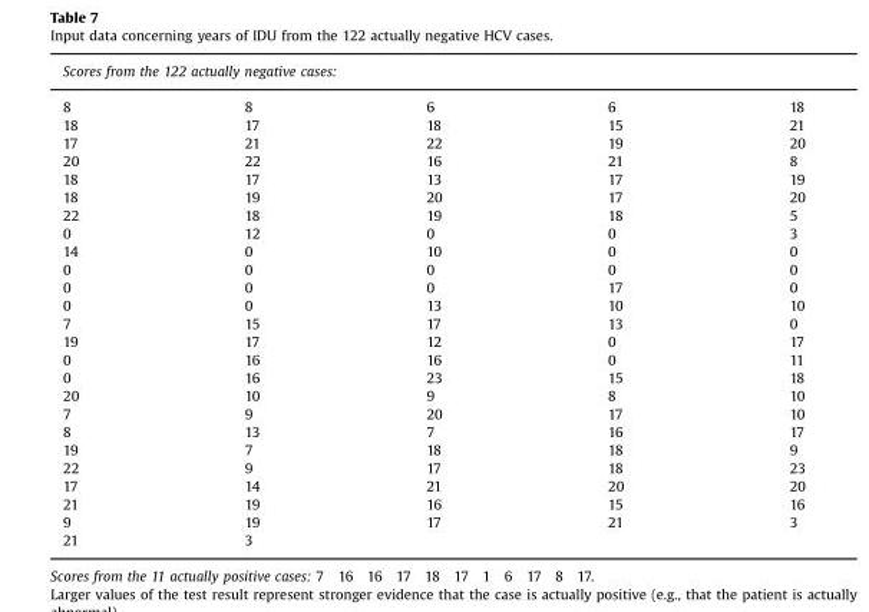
<table><thead><tr><td colspan="5">Scores from the 122 actually negative cases:</td></tr><tr><td>8</td><td>8</td><td>6</td><td>6</td><td>18</td></tr></thead><tbody><tr><td>18</td><td>17</td><td>18</td><td>15</td><td>21</td></tr><tr><td>17</td><td>21</td><td>22</td><td>19</td><td>20</td></tr><tr><td>20</td><td>22</td><td>16</td><td>21</td><td>8</td></tr><tr><td>18</td><td>17</td><td>13</td><td>17</td><td>19</td></tr><tr><td>18</td><td>19</td><td>20</td><td>17</td><td>20</td></tr><tr><td>22</td><td>18</td><td>19</td><td>18</td><td>5</td></tr><tr><td>0</td><td>12</td><td>0</td><td>0</td><td>3</td></tr><tr><td>14</td><td>0</td><td>10</td><td>0</td><td>0</td></tr><tr><td>0</td><td>0</td><td>0</td><td>0</td><td>0</td></tr><tr><td>0</td><td>0</td><td>0</td><td>17</td><td>0</td></tr><tr><td>0</td><td>0</td><td>13</td><td>10</td><td>10</td></tr><tr><td>7</td><td>15</td><td>17</td><td>13</td><td>0</td></tr><tr><td>19</td><td>17</td><td>12</td><td>0</td><td>17</td></tr><tr><td>0</td><td>16</td><td>16</td><td>0</td><td>11</td></tr><tr><td>0</td><td>16</td><td>23</td><td>15</td><td>18</td></tr><tr><td>20</td><td>10</td><td>9</td><td>8</td><td>10</td></tr><tr><td>7</td><td>9</td><td>20</td><td>17</td><td>10</td></tr><tr><td>8</td><td>13</td><td>7</td><td>16</td><td>17</td></tr><tr><td>19</td><td>7</td><td>18</td><td>18</td><td>9</td></tr><tr><td>22</td><td>9</td><td>17</td><td>18</td><td>23</td></tr><tr><td>17</td><td>14</td><td>21</td><td>20</td><td>20</td></tr><tr><td>21</td><td>19</td><td>16</td><td>15</td><td>16</td></tr><tr><td>9</td><td>19</td><td>17</td><td>21</td><td>3</td></tr><tr><td>21</td><td>3</td><td></td><td></td><td></td></tr></tbody></table>